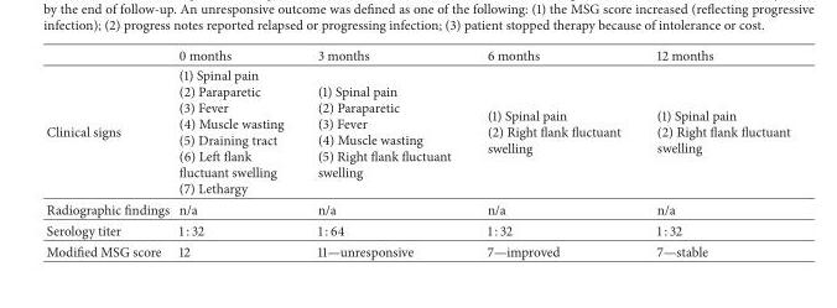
<table><thead><tr><td></td><td>0 months</td><td>3 months</td><td>6 months</td><td>12 months</td></tr></thead><tbody><tr><td>Clinical signs</td><td>(1) Spinal pain (2) Paraparetic (3) Fever (4) Muscle wasting (5) Draining tract (6) Left flank fluctuant swelling (7) Lethargy</td><td>(1) Spinal pain (2) Paraparetic (3) Fever (4) Muscle wasting (5) Right flank fluctuant swelling</td><td>(1) Spinal pain (2) Right flank fluctuant swelling</td><td>(1) Spinal pain (2) Right flank fluctuant swelling</td></tr><tr><td>Radiographic findings</td><td>n/a</td><td>n/a</td><td>n/a</td><td>n/a</td></tr><tr><td>Serology titer</td><td>1 : 32</td><td>1 : 64</td><td>1 : 32</td><td>1 : 32</td></tr><tr><td>Modified MSG score</td><td>12</td><td>11—unresponsive</td><td>7—improved</td><td>7—stable</td></tr></tbody></table>